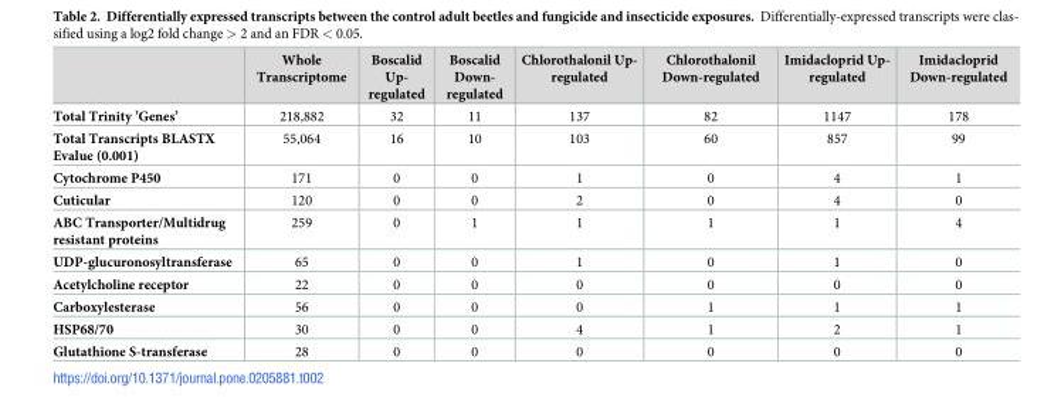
<table><thead><tr><td></td><td>Whole Transcriptome</td><td>Boscalid Up- regulated</td><td>Boscalid Down- regulated</td><td>Chlorothalonil Up- regulated</td><td>Chlorothalonil Down-regulated</td><td>Imidacloprid Up- regulated</td><td>Imidacloprid Down-regulated</td></tr></thead><tbody><tr><td>Total Trinity ’Genes’</td><td>218,882</td><td>32</td><td>11</td><td>137</td><td>82</td><td>1147</td><td>178</td></tr><tr><td>Total Transcripts BLASTX Evalue (0.001)</td><td>55,064</td><td>16</td><td>10</td><td>103</td><td>60</td><td>857</td><td>99</td></tr><tr><td>Cytochrome P450</td><td>171</td><td>0</td><td>0</td><td>1</td><td>0</td><td>4</td><td>1</td></tr><tr><td>Cuticular</td><td>120</td><td>0</td><td>0</td><td>2</td><td>0</td><td>4</td><td>0</td></tr><tr><td>ABC Transporter/Multidrug resistant proteins</td><td>259</td><td>0</td><td>1</td><td>1</td><td>1</td><td>1</td><td>4</td></tr><tr><td>UDP-glucuronosyltransferase</td><td>65</td><td>0</td><td>0</td><td>1</td><td>0</td><td>1</td><td>0</td></tr><tr><td>Acetylcholine receptor</td><td>22</td><td>0</td><td>0</td><td>0</td><td>0</td><td>0</td><td>0</td></tr><tr><td>Carboxylesterase</td><td>56</td><td>0</td><td>0</td><td>0</td><td>1</td><td>1</td><td>1</td></tr><tr><td>HSP68/70</td><td>30</td><td>0</td><td>0</td><td>4</td><td>1</td><td>2</td><td>1</td></tr><tr><td>Glutathione S-transferase</td><td>28</td><td>0</td><td>0</td><td>0</td><td>0</td><td>0</td><td>0</td></tr></tbody></table>